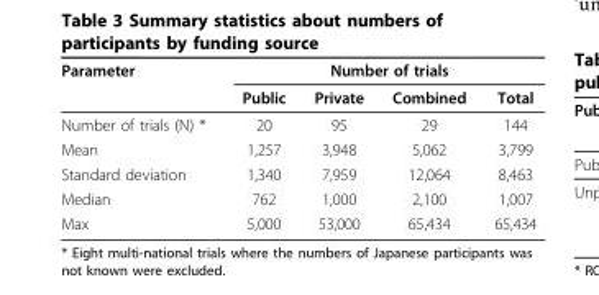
<table><thead><tr><td rowspan="2">Parameter</td><td colspan="4">Number of trials</td></tr><tr><td>Public</td><td>Private</td><td>Combined</td><td>Total</td></tr></thead><tbody><tr><td>Number of trials (N) *</td><td>20</td><td>95</td><td>29</td><td>144</td></tr><tr><td>Mean</td><td>1,257</td><td>3,948</td><td>5,062</td><td>3,799</td></tr><tr><td>Standard deviation</td><td>1,340</td><td>7,959</td><td>12,064</td><td>8,463</td></tr><tr><td>Median</td><td>762</td><td>1,000</td><td>2,100</td><td>1,007</td></tr><tr><td>Max</td><td>5,000</td><td>53,000</td><td>65,434</td><td>65,434</td></tr></tbody></table>